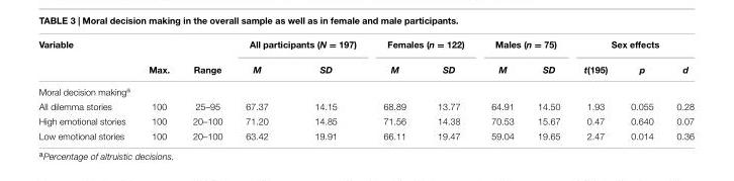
<table><thead><tr><td rowspan="2">Variable</td><td rowspan="2">Max.</td><td rowspan="2">Range</td><td colspan="2">All participants (N = 197)</td><td colspan="2">Females (n = 122)</td><td colspan="2">Males (n = 75)</td><td colspan="3">Sex effects</td></tr><tr><td>M</td><td>SD</td><td>M</td><td>SD</td><td>M</td><td>SD</td><td>t(195)</td><td>p</td><td>d</td></tr></thead><tbody><tr><td colspan="12">Moral decision making<sup>a</sup></td></tr><tr><td>All dilemma stories</td><td>100</td><td>25–95</td><td>67.37</td><td>14.15</td><td>68.89</td><td>13.77</td><td>64.91</td><td>14.50</td><td>1.93</td><td>0.055</td><td>0.28</td></tr><tr><td>High emotional stories</td><td>100</td><td>20–100</td><td>71.20</td><td>14.85</td><td>71.56</td><td>14.38</td><td>70.53</td><td>15.67</td><td>0.47</td><td>0.640</td><td>0.07</td></tr><tr><td>Low emotional stories</td><td>100</td><td>20–100</td><td>63.42</td><td>19.91</td><td>66.11</td><td>19.47</td><td>59.04</td><td>19.65</td><td>2.47</td><td>0.014</td><td>0.36</td></tr></tbody></table>